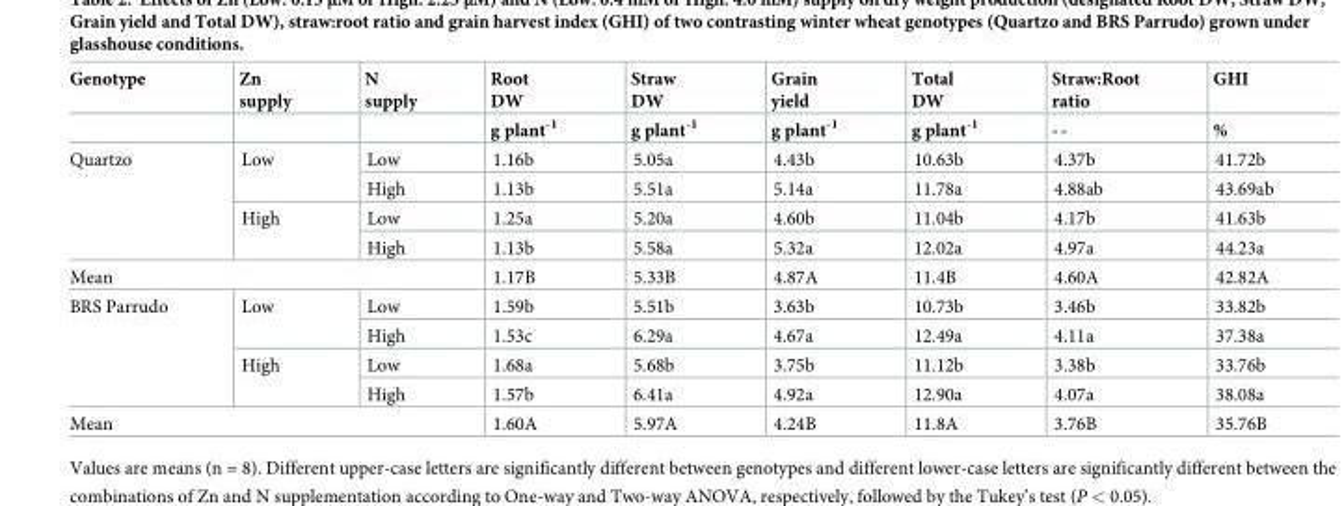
<table><thead><tr><td rowspan="2">Genotype</td><td rowspan="2">Zn supply</td><td rowspan="2">N supply</td><td rowspan="2">Root DW g plant<sup>-1</sup></td><td rowspan="2">Straw DW g plant<sup>-1</sup></td><td rowspan="2">Grain yield g plant<sup>-1</sup></td><td rowspan="2">Total DW g plant<sup>-1</sup></td><td rowspan="2">Straw:Root ratio --</td><td rowspan="2">GHI %</td></tr><tr></tr></thead><tbody><tr><td rowspan="4">Quartzo</td><td rowspan="2">Low</td><td>Low</td><td>1.16b</td><td>5.05a</td><td>4.43b</td><td>10.63b</td><td>4.37b</td><td>41.72b</td></tr><tr><td>High</td><td>1.13b</td><td>5.51a</td><td>5.14a</td><td>11.78a</td><td>4.88ab</td><td>43.69ab</td></tr><tr><td rowspan="2">High</td><td>Low</td><td>1.25a</td><td>5.20a</td><td>4.60b</td><td>11.04b</td><td>4.17b</td><td>41.63b</td></tr><tr><td>High</td><td>1.13b</td><td>5.58a</td><td>5.32a</td><td>12.02a</td><td>4.97a</td><td>44.23a</td></tr><tr><td colspan="3">Mean</td><td>1.17B</td><td>5.33B</td><td>4.87A</td><td>11.4B</td><td>4.60A</td><td>42.82A</td></tr><tr><td rowspan="4">BRS Parrudo</td><td rowspan="2">Low</td><td>Low</td><td>1.59b</td><td>5.51b</td><td>3.63b</td><td>10.73b</td><td>3.46b</td><td>33.82b</td></tr><tr><td>High</td><td>1.53c</td><td>6.29a</td><td>4.67a</td><td>12.49a</td><td>4.11a</td><td>37.38a</td></tr><tr><td rowspan="2">High</td><td>Low</td><td>1.68a</td><td>5.68b</td><td>3.75b</td><td>11.12b</td><td>3.38b</td><td>33.76b</td></tr><tr><td>High</td><td>1.57b</td><td>6.41a</td><td>4.92a</td><td>12.90a</td><td>4.07a</td><td>38.08a</td></tr><tr><td colspan="3">Mean</td><td>1.60A</td><td>5.97A</td><td>4.24B</td><td>11.8A</td><td>3.76B</td><td>35.76B</td></tr></tbody></table>